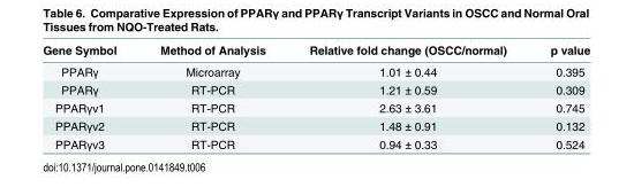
<table><thead><tr><td>Gene Symbol</td><td>Method of Analysis</td><td>Relative fold change (OSCC/normal)</td><td>p value</td></tr></thead><tbody><tr><td>PPARγ</td><td>Microarray</td><td>1.01 ± 0.44</td><td>0.395</td></tr><tr><td>PPARγ</td><td>RT-PCR</td><td>1.21 ± 0.59</td><td>0.309</td></tr><tr><td>PPARγv1</td><td>RT-PCR</td><td>2.63 ± 3.61</td><td>0.745</td></tr><tr><td>PPARγv2</td><td>RT-PCR</td><td>1.48 ± 0.91</td><td>0.132</td></tr><tr><td>PPARγv3</td><td>RT-PCR</td><td>0.94 ± 0.33</td><td>0.524</td></tr></tbody></table>